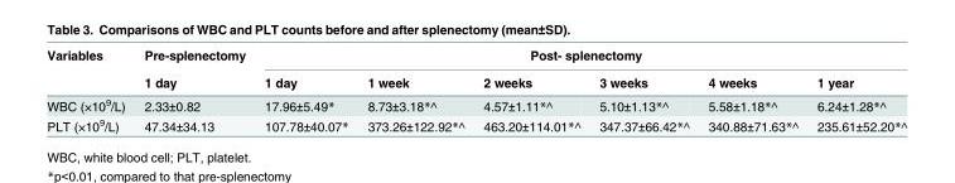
<table><thead><tr><td rowspan="2">Variables</td><td rowspan="2">Pre-splenectomy 1 day</td><td colspan="6">Post- splenectomy</td></tr><tr><td>1 day</td><td>1 week</td><td>2 weeks</td><td>3 weeks</td><td>4 weeks</td><td>1 year</td></tr></thead><tbody><tr><td>WBC (×10<sup>9</sup>/L)</td><td>2.33±0.82</td><td>17.96±5.49*</td><td>8.73±3.18*^</td><td>4.57±1.11*^</td><td>5.10±1.13*^</td><td>5.58±1.18*^</td><td>6.24±1.28*^</td></tr><tr><td>PLT (×10<sup>9</sup>/L)</td><td>47.34±34.13</td><td>107.78±40.07*</td><td>373.26±122.92*^</td><td>463.20±114.01*^</td><td>347.37±66.42*^</td><td>340.88±71.63*^</td><td>235.61±52.20*^</td></tr></tbody></table>